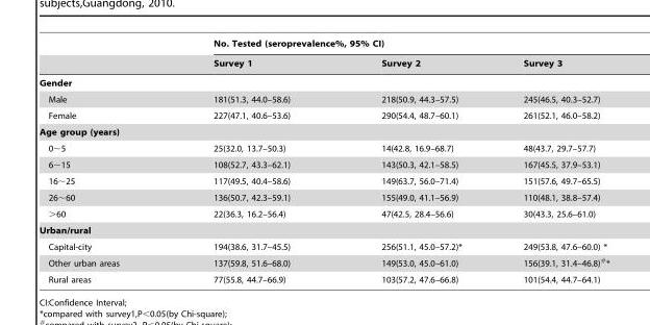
<table><thead><tr><td rowspan="2"></td><td colspan="3">No. Tested (seroprevalence%, 95% CI)</td></tr><tr><td>Survey 1</td><td>Survey 2</td><td>Survey 3</td></tr></thead><tbody><tr><td colspan="4">Gender</td></tr><tr><td>Male</td><td>181(51.3, 44.0–58.6)</td><td>218(50.9, 44.3–57.5)</td><td>245(46.5, 40.3–52.7)</td></tr><tr><td>Female</td><td>227(47.1, 40.6–53.6)</td><td>290(54.4, 48.7–60.1)</td><td>261(52.1, 46.0–58.2)</td></tr><tr><td colspan="4">Age group (years)</td></tr><tr><td>0∼5</td><td>25(32.0, 13.7–50.3)</td><td>14(42.8, 16.9–68.7)</td><td>48(43.7, 29.7–57.7)</td></tr><tr><td>6∼15</td><td>108(52.7, 43.3–62.1)</td><td>143(50.3, 42.1–58.5)</td><td>167(45.5, 37.9–53.1)</td></tr><tr><td>16∼25</td><td>117(49.5, 40.4–58.6)</td><td>149(63.7, 56.0–71.4)</td><td>151(57.6, 49.7–65.5)</td></tr><tr><td>26∼60</td><td>136(50.7, 42.3–59.1)</td><td>155(49.0, 41.1–56.9)</td><td>110(48.1, 38.8–57.4)</td></tr><tr><td>&gt;60</td><td>22(36.3, 16.2–56.4)</td><td>47(42.5, 28.4–56.6)</td><td>30(43.3, 25.6–61.0)</td></tr><tr><td colspan="4">Urban/rural</td></tr><tr><td>Capital-city</td><td>194(38.6, 31.7–45.5)</td><td>256(51.1, 45.0–57.2)*</td><td>249(53.8, 47.6–60.0) *</td></tr><tr><td>Other urban areas</td><td>137(59.8, 51.6–68.0)</td><td>149(53.0, 45.0–61.0)</td><td>156(39.1, 31.4–46.8)#*</td></tr><tr><td>Rural areas</td><td>77(55.8, 44.7–66.9)</td><td>103(57.2, 47.6–66.8)</td><td>101(54.4, 44.7–64.1)</td></tr></tbody></table>